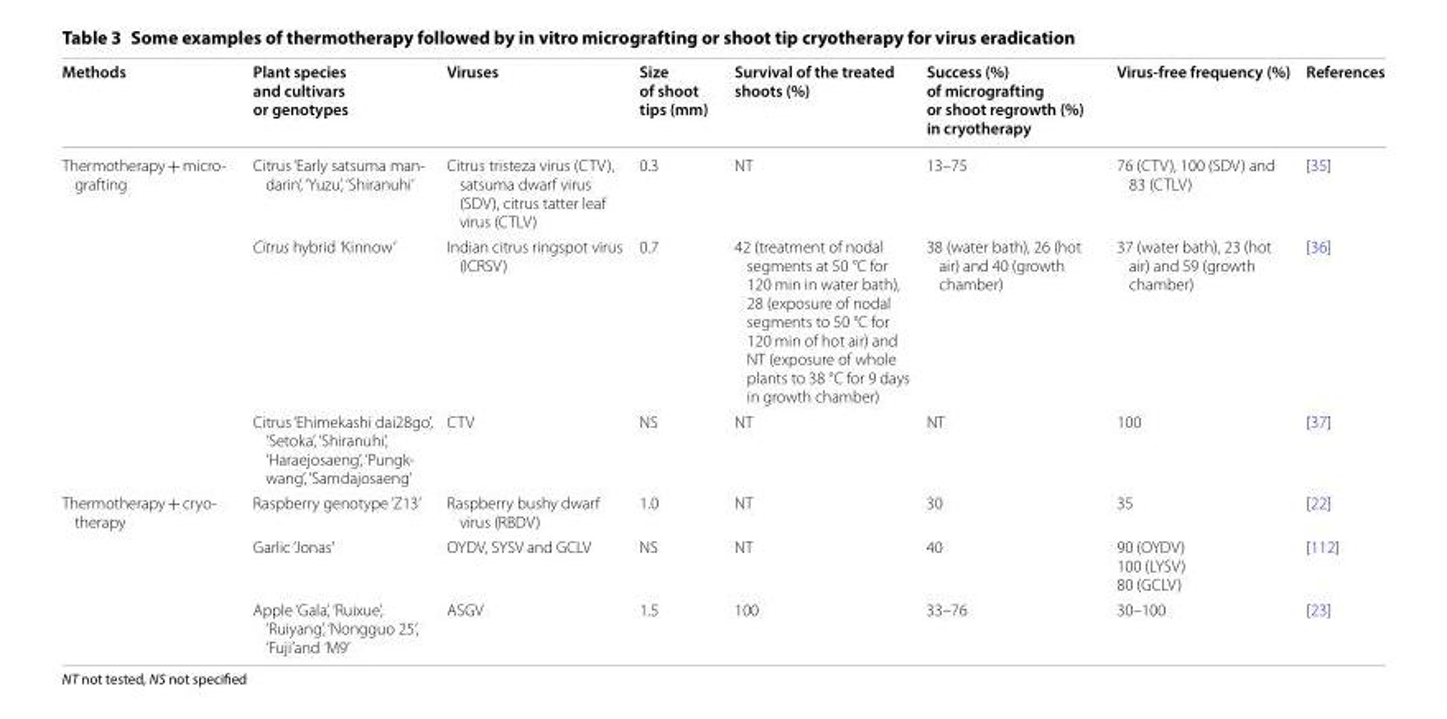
<table><thead><tr><td>Methods</td><td>Plant species and cultivars or genotypes</td><td>Viruses</td><td>Size of shoot tips (mm)</td><td>Survival of the treated shoots (%)</td><td>Success (%) of micrografting or shoot regrowth (%) in cryotherapy</td><td>Virus-free frequency (%)</td><td>References</td></tr></thead><tbody><tr><td rowspan="3">Thermotherapy + micro‑ grafting</td><td>Citrus ‘Early satsuma man‑ darin’, ‘Yuzu’, ‘Shiranuhi’</td><td>Citrus tristeza virus (CTV), satsuma dwarf virus (SDV), citrus tatter leaf virus (CTLV)</td><td>0.3</td><td>NT</td><td>13–75</td><td>76 (CTV), 100 (SDV) and 83 (CTLV)</td><td>[35]</td></tr><tr><td>Citrus hybrid ‘Kinnow’</td><td>Indian citrus ringspot virus (ICRSV)</td><td>0.7</td><td>42 (treatment of nodal segments at 50 °C for 120 min in water bath), 28 (exposure of nodal segments to 50 °C for 120 min of hot air) and NT (exposure of whole plants to 38 °C for 9 days in growth chamber)</td><td>38 (water bath), 26 (hot air) and 40 (growth chamber)</td><td>37 (water bath), 23 (hot air) and 59 (growth chamber)</td><td>[36]</td></tr><tr><td>Citrus ‘Ehimekashi dai28go’, ‘Setoka’, ‘Shiranuhi’, ‘Haraejosaeng’, ‘Pungk‑ wang’, ‘Samdajosaeng’</td><td>CTV</td><td>NS</td><td>NT</td><td>NT</td><td>100</td><td>[37]</td></tr><tr><td rowspan="3">Thermotherapy + cryo‑ therapy</td><td>Raspberry genotype ‘Z13’</td><td>Raspberry bushy dwarf virus (RBDV)</td><td>1.0</td><td>NT</td><td>30</td><td>35</td><td>[22]</td></tr><tr><td>Garlic ‘Jonas’</td><td>OYDV, SYSV and GCLV</td><td>NS</td><td>NT</td><td>40</td><td>90 (OYDV) 100 (LYSV) 80 (GCLV)</td><td>[112]</td></tr><tr><td>Apple ‘Gala’, ‘Ruixue’, ‘Ruiyang’, ‘Nongguo 25’, ‘Fuji’and ‘M9’</td><td>ASGV</td><td>1.5</td><td>100</td><td>33–76</td><td>30–100</td><td>[23]</td></tr></tbody></table>